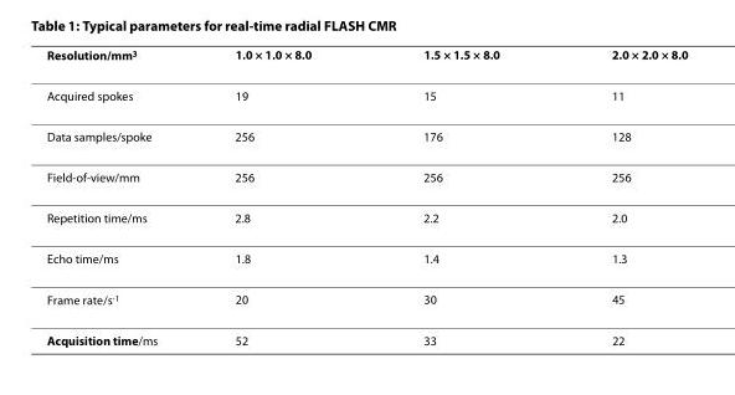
<table><thead><tr><td>Resolution/mm<sup>3</sup></td><td>1.0 × 1.0 × 8.0</td><td>1.5 × 1.5 × 8.0</td><td>2.0 × 2.0 × 8.0</td></tr></thead><tbody><tr><td>Acquired spokes</td><td>19</td><td>15</td><td>11</td></tr><tr><td>Data samples/spoke</td><td>256</td><td>176</td><td>128</td></tr><tr><td>Field-of-view/mm</td><td>256</td><td>256</td><td>256</td></tr><tr><td>Repetition time/ms</td><td>2.8</td><td>2.2</td><td>2.0</td></tr><tr><td>Echo time/ms</td><td>1.8</td><td>1.4</td><td>1.3</td></tr><tr><td>Frame rate/s<sup>-1</sup></td><td>20</td><td>30</td><td>45</td></tr><tr><td>Acquisition time/ms</td><td>52</td><td>33</td><td>22</td></tr></tbody></table>